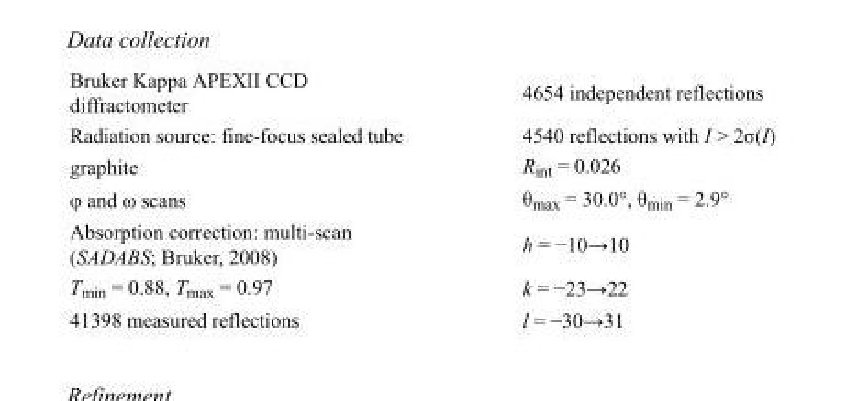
<table><tbody><tr><td>Bruker Kappa APEXII CCD diffractometer</td><td>4654 independent reflections</td></tr><tr><td>Radiation source: fine-focus sealed tube</td><td>4540 reflections with I &gt; 2σ(I)</td></tr><tr><td>graphite</td><td>R<sub>int</sub> = 0.026</td></tr><tr><td>φ and ω scans</td><td>θ<sub>max</sub> = 30.0°, θ<sub>min</sub> = 2.9°</td></tr><tr><td>Absorption correction: multi-scan (SADABS; Bruker, 2008)</td><td>h = −10→10</td></tr><tr><td>T<sub>min</sub> = 0.88, T<sub>max</sub> = 0.97</td><td>k = −23→22</td></tr><tr><td>41398 measured reflections</td><td>l = −30→31</td></tr></tbody></table>